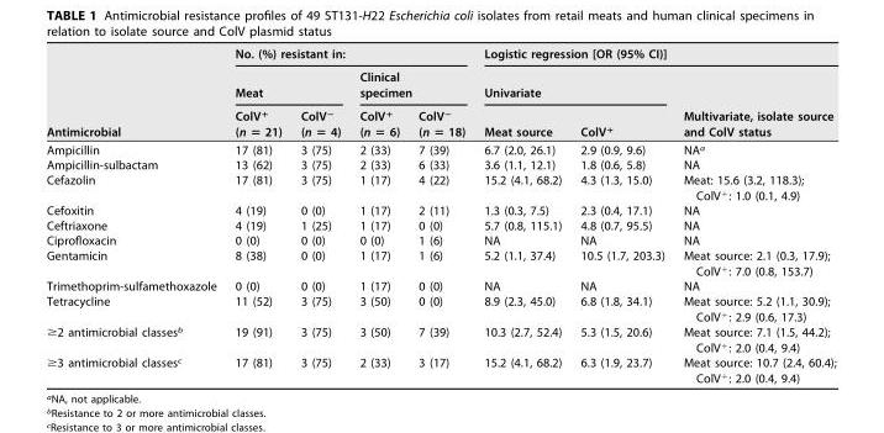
<table><thead><tr><td rowspan="3">Antimicrobial</td><td colspan="4">No. (%) resistant in:</td><td colspan="3">Logistic regression [OR (95% CI)]</td></tr><tr><td colspan="2">Meat</td><td colspan="2">Clinical specimen</td><td colspan="2">Univariate</td><td rowspan="2">Multivariate, isolate source and ColV status</td></tr><tr><td>ColV<sup>+</sup> (n = 21)</td><td>ColV<sup>−</sup> (n = 4)</td><td>ColV<sup>+</sup> (n = 6)</td><td>ColV<sup>−</sup> (n = 18)</td><td>Meat source</td><td>ColV<sup>+</sup></td></tr></thead><tbody><tr><td>Ampicillin</td><td>17 (81)</td><td>3 (75)</td><td>2 (33)</td><td>7 (39)</td><td>6.7 (2.0, 26.1)</td><td>2.9 (0.9, 9.6)</td><td>NA<sup>a</sup></td></tr><tr><td>Ampicillin-sulbactam</td><td>13 (62)</td><td>3 (75)</td><td>2 (33)</td><td>6 (33)</td><td>3.6 (1.1, 12.1)</td><td>1.8 (0.6, 5.8)</td><td>NA</td></tr><tr><td>Cefazolin</td><td>17 (81)</td><td>3 (75)</td><td>1 (17)</td><td>4 (22)</td><td>15.2 (4.1, 68.2)</td><td>4.3 (1.3, 15.0)</td><td>Meat: 15.6 (3.2, 118.3); ColV<sup>+</sup>: 1.0 (0.1, 4.9)</td></tr><tr><td>Cefoxitin</td><td>4 (19)</td><td>0 (0)</td><td>1 (17)</td><td>2 (11)</td><td>1.3 (0.3, 7.5)</td><td>2.3 (0.4, 17.1)</td><td>NA</td></tr><tr><td>Ceftriaxone</td><td>4 (19)</td><td>1 (25)</td><td>1 (17)</td><td>0 (0)</td><td>5.7 (0.8, 115.1)</td><td>4.8 (0.7, 95.5)</td><td>NA</td></tr><tr><td>Ciprofloxacin</td><td>0 (0)</td><td>0 (0)</td><td>0 (0)</td><td>1 (6)</td><td>NA</td><td>NA</td><td>NA</td></tr><tr><td>Gentamicin</td><td>8 (38)</td><td>0 (0)</td><td>1 (17)</td><td>1 (6)</td><td>5.2 (1.1, 37.4)</td><td>10.5 (1.7, 203.3)</td><td>Meat source: 2.1 (0.3, 17.9); ColV<sup>+</sup>: 7.0 (0.8, 153.7)</td></tr><tr><td>Trimethoprim-sulfamethoxazole</td><td>0 (0)</td><td>0 (0)</td><td>1 (17)</td><td>0 (0)</td><td>NA</td><td>NA</td><td>NA</td></tr><tr><td>Tetracycline</td><td>11 (52)</td><td>3 (75)</td><td>3 (50)</td><td>0 (0)</td><td>8.9 (2.3, 45.0)</td><td>6.8 (1.8, 34.1)</td><td>Meat source: 5.2 (1.1, 30.9); ColV<sup>+</sup>: 2.9 (0.6, 17.3)</td></tr><tr><td>≥2 antimicrobial classes<sup>b</sup></td><td>19 (91)</td><td>3 (75)</td><td>3 (50)</td><td>7 (39)</td><td>10.3 (2.7, 52.4)</td><td>5.3 (1.5, 20.6)</td><td>Meat source: 7.1 (1.5, 44.2); ColV<sup>+</sup>: 2.0 (0.4, 9.4)</td></tr><tr><td>≥3 antimicrobial classes<sup>c</sup></td><td>17 (81)</td><td>3 (75)</td><td>2 (33)</td><td>3 (17)</td><td>15.2 (4.1, 68.2)</td><td>6.3 (1.9, 23.7)</td><td>Meat source: 10.7 (2.4, 60.4); ColV<sup>+</sup>: 2.0 (0.4, 9.4)</td></tr></tbody></table>